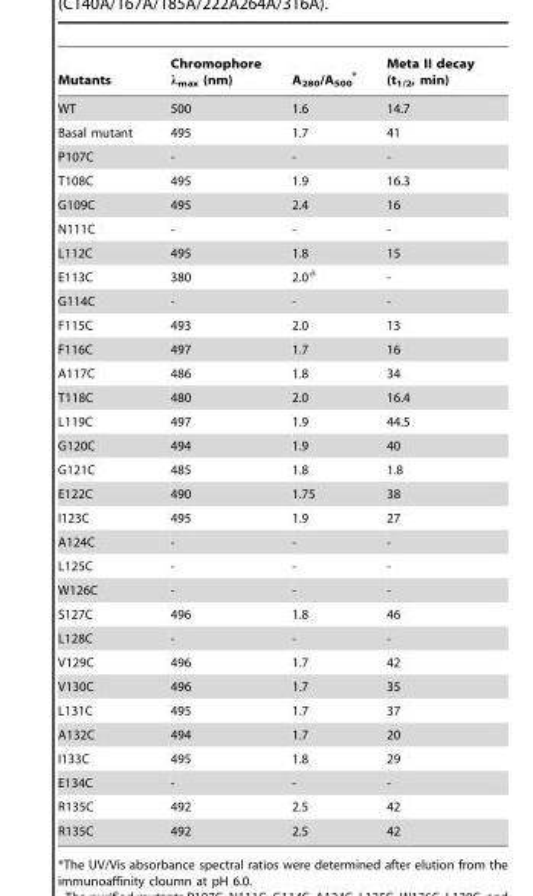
<table><thead><tr><td>Mutants</td><td>Chromophore λ<sub>max</sub> (nm)</td><td>A<sub>280</sub>/A<sub>500</sub> *</td><td>Meta II decay (t<sub>1/2</sub>, min)</td></tr></thead><tbody><tr><td>WT</td><td>500</td><td>1.6</td><td>14.7</td></tr><tr><td>Basal mutant</td><td>495</td><td>1.7</td><td>41</td></tr><tr><td>P107C</td><td>-</td><td>-</td><td>-</td></tr><tr><td>T108C</td><td>495</td><td>1.9</td><td>16.3</td></tr><tr><td>G109C</td><td>495</td><td>2.4</td><td>16</td></tr><tr><td>N111C</td><td>-</td><td>-</td><td>-</td></tr><tr><td>L112C</td><td>495</td><td>1.8</td><td>15</td></tr><tr><td>E113C</td><td>380</td><td>2.0#</td><td>-</td></tr><tr><td>G114C</td><td>-</td><td>-</td><td>-</td></tr><tr><td>F115C</td><td>493</td><td>2.0</td><td>13</td></tr><tr><td>F116C</td><td>497</td><td>1.7</td><td>16</td></tr><tr><td>A117C</td><td>486</td><td>1.8</td><td>34</td></tr><tr><td>T118C</td><td>480</td><td>2.0</td><td>16.4</td></tr><tr><td>L119C</td><td>497</td><td>1.9</td><td>44.5</td></tr><tr><td>G120C</td><td>494</td><td>1.9</td><td>40</td></tr><tr><td>G121C</td><td>485</td><td>1.8</td><td>1.8</td></tr><tr><td>E122C</td><td>490</td><td>1.75</td><td>38</td></tr><tr><td>I123C</td><td>495</td><td>1.9</td><td>27</td></tr><tr><td>A124C</td><td>-</td><td>-</td><td>-</td></tr><tr><td>L125C</td><td>-</td><td>-</td><td>-</td></tr><tr><td>W126C</td><td>-</td><td>-</td><td>-</td></tr><tr><td>S127C</td><td>496</td><td>1.8</td><td>46</td></tr><tr><td>L128C</td><td>-</td><td>-</td><td>-</td></tr><tr><td>V129C</td><td>496</td><td>1.7</td><td>42</td></tr><tr><td>V130C</td><td>496</td><td>1.7</td><td>35</td></tr><tr><td>L131C</td><td>495</td><td>1.7</td><td>37</td></tr><tr><td>A132C</td><td>494</td><td>1.7</td><td>20</td></tr><tr><td>I133C</td><td>495</td><td>1.8</td><td>29</td></tr><tr><td>E134C</td><td>-</td><td>-</td><td>-</td></tr><tr><td>R135C</td><td>492</td><td>2.5</td><td>42</td></tr><tr><td>R135C</td><td>492</td><td>2.5</td><td>42</td></tr></tbody></table>